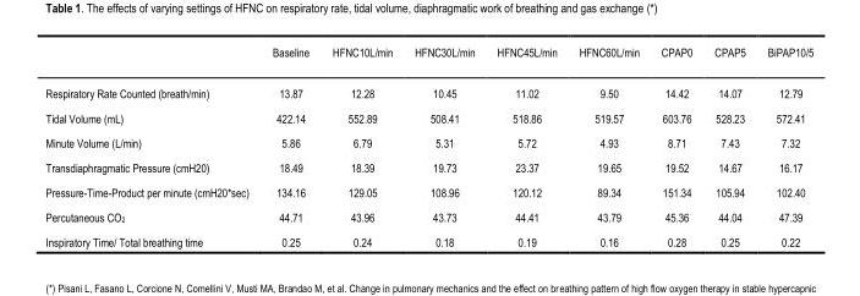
<table><thead><tr><td></td><td>Baseline</td><td>HFNC10L/min</td><td>HFNC30L/min</td><td>HFNC45L/min</td><td>HFNC60L/min</td><td>CPAP0</td><td>CPAP5</td><td>BiPAP10/5</td></tr></thead><tbody><tr><td>Respiratory Rate Counted (breath/min)</td><td>13.87</td><td>12.28</td><td>10.45</td><td>11.02</td><td>9.50</td><td>14.42</td><td>14.07</td><td>12.79</td></tr><tr><td>Tidal Volume (mL)</td><td>422.14</td><td>552.89</td><td>508.41</td><td>518.86</td><td>519.57</td><td>603.76</td><td>528.23</td><td>572.41</td></tr><tr><td>Minute Volume (L/min)</td><td>5.86</td><td>6.79</td><td>5.31</td><td>5.72</td><td>4.93</td><td>8.71</td><td>7.43</td><td>7.32</td></tr><tr><td>Transdiaphragmatic Pressure (cmH20)</td><td>18.49</td><td>18.39</td><td>19.73</td><td>23.37</td><td>19.65</td><td>19.52</td><td>14.67</td><td>16.17</td></tr><tr><td>Pressure-Time-Product per minute (cmH20*sec)</td><td>134.16</td><td>129.05</td><td>108.96</td><td>120.12</td><td>89.34</td><td>151.34</td><td>105.94</td><td>102.40</td></tr><tr><td>Percutaneous CO<sub>2</sub></td><td>44.71</td><td>43.96</td><td>43.73</td><td>44.41</td><td>43.79</td><td>45.36</td><td>44.04</td><td>47.39</td></tr><tr><td>Inspiratory Time/ Total breathing time</td><td>0.25</td><td>0.24</td><td>0.18</td><td>0.19</td><td>0.16</td><td>0.28</td><td>0.25</td><td>0.22</td></tr></tbody></table>